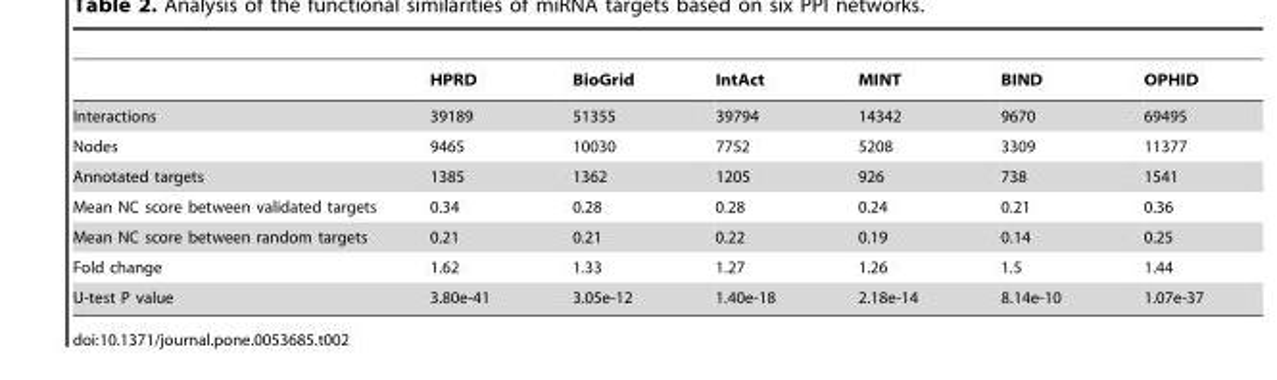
<table><thead><tr><td></td><td>HPRD</td><td>BioGrid</td><td>IntAct</td><td>MINT</td><td>BIND</td><td>OPHID</td></tr></thead><tbody><tr><td>Interactions</td><td>39189</td><td>51355</td><td>39794</td><td>14342</td><td>9670</td><td>69495</td></tr><tr><td>Nodes</td><td>9465</td><td>10030</td><td>7752</td><td>5208</td><td>3309</td><td>11377</td></tr><tr><td>Annotated targets</td><td>1385</td><td>1362</td><td>1205</td><td>926</td><td>738</td><td>1541</td></tr><tr><td>Mean NC score between validated targets</td><td>0.34</td><td>0.28</td><td>0.28</td><td>0.24</td><td>0.21</td><td>0.36</td></tr><tr><td>Mean NC score between random targets</td><td>0.21</td><td>0.21</td><td>0.22</td><td>0.19</td><td>0.14</td><td>0.25</td></tr><tr><td>Fold change</td><td>1.62</td><td>1.33</td><td>1.27</td><td>1.26</td><td>1.5</td><td>1.44</td></tr><tr><td>U-test P value</td><td>3.80e-41</td><td>3.05e-12</td><td>1.40e-18</td><td>2.18e-14</td><td>8.14e-10</td><td>1.07e-37</td></tr></tbody></table>